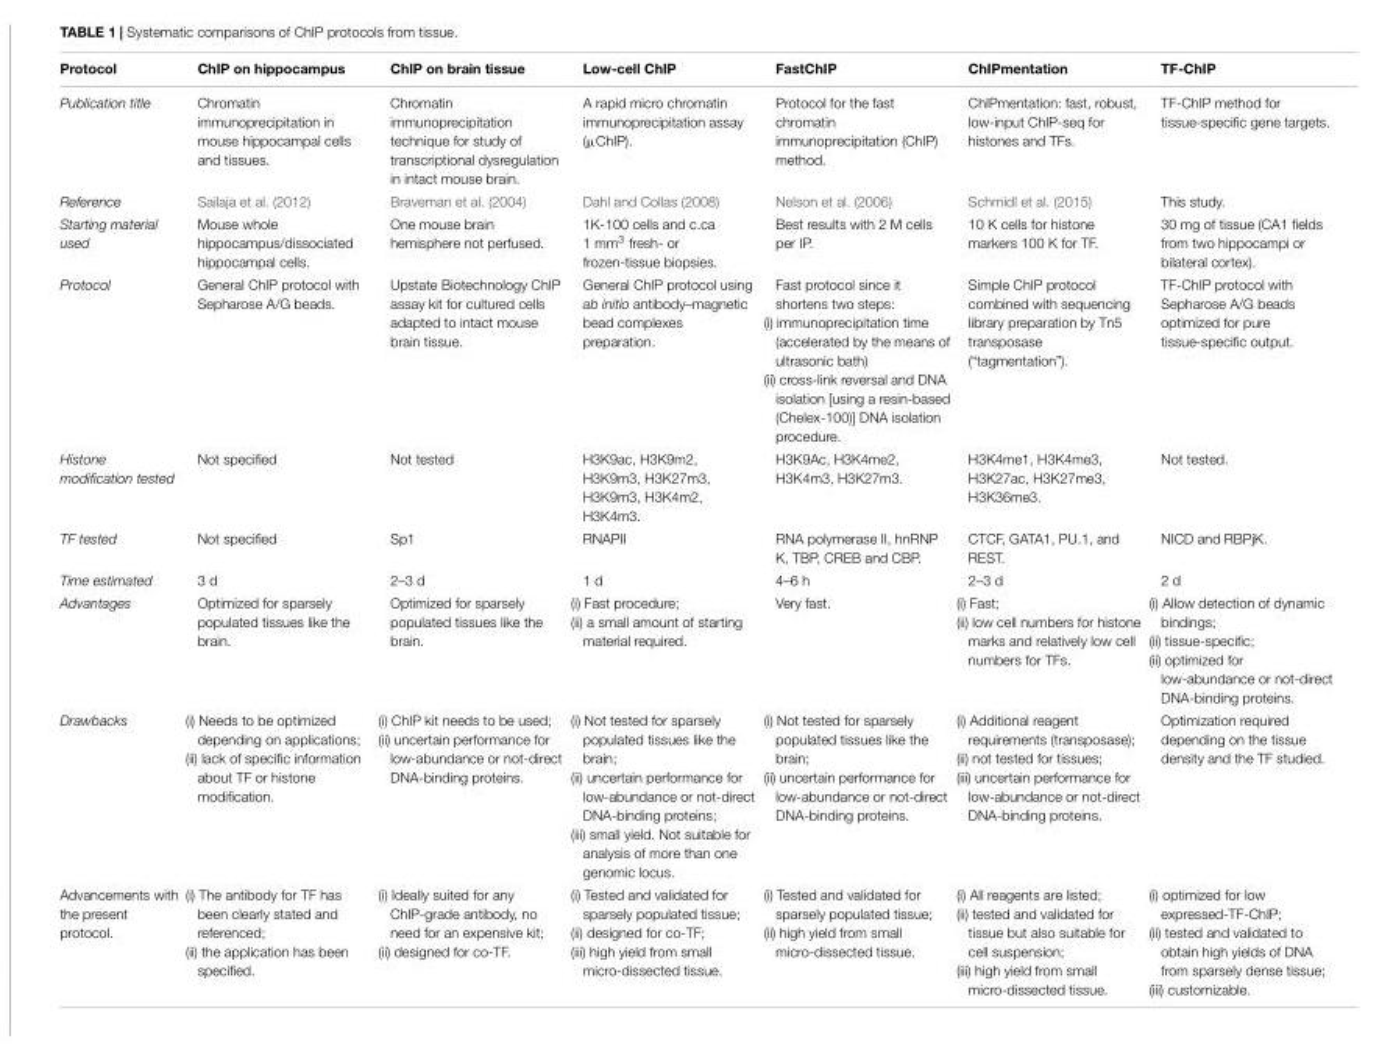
<table><thead><tr><td>Protocol</td><td>ChIP on hippocampus</td><td>ChIP on brain tissue</td><td>Low-cell ChIP</td><td>FastChIP</td><td>ChIPmentation</td><td>TF-ChIP</td></tr></thead><tbody><tr><td>Publication title</td><td>Chromatin immunoprecipitation in mouse hippocampal cells and tissues.</td><td>Chromatin immunoprecipitation technique for study of transcriptional dysregulation in intact mouse brain.</td><td>A rapid micro chromatin immunoprecipitation assay (µChIP).</td><td>Protocol for the fast chromatin immunoprecipitation (ChIP) method.</td><td>ChIPmentation: fast, robust, low-input ChIP-seq for histones and TFs.</td><td>TF-ChIP method for tissue-specific gene targets.</td></tr><tr><td>Reference</td><td>Sailaja et al. (2012)</td><td>Braveman et al. (2004)</td><td>Dahl and Collas (2008)</td><td>Nelson et al. (2006)</td><td>Schmidl et al. (2015)</td><td>This study.</td></tr><tr><td>Starting material used</td><td>Mouse whole hippocampus/dissociated hippocampal cells.</td><td>One mouse brain hemisphere not perfused.</td><td>1K-100 cells and c.ca 1 mm<sup>3</sup> fresh- or frozen-tissue biopsies.</td><td>Best results with 2 M cells per IP.</td><td>10 K cells for histone markers 100 K for TF.</td><td>30 mg of tissue (CA1 fields from two hippocampi or bilateral cortex).</td></tr><tr><td>Protocol</td><td>General ChIP protocol with Sepharose A/G beads.</td><td>Upstate Biotechnology ChIP assay kit for cultured cells adapted to intact mouse brain tissue.</td><td>General ChIP protocol using ab initio antibody–magnetic bead complexes preparation.</td><td>Fast protocol since it shortens two steps: (i) immunoprecipitation time (accelerated by the means of ultrasonic bath) (ii) cross-link reversal and DNA isolation [using a resin-based (Chelex-100)] DNA isolation procedure.</td><td>Simple ChIP protocol combined with sequencing library preparation by Tn5 transposase (“tagmentation”).</td><td>TF-ChIP protocol with Sepharose A/G beads optimized for pure tissue-specific output.</td></tr><tr><td>Histone modification tested</td><td>Not specified</td><td>Not tested</td><td>H3K9ac, H3K9m2, H3K9m3, H3K27m3, H3K9m3, H3K4m2, H3K4m3.</td><td>H3K9Ac, H3K4me2, H3K4m3, H3K27m3.</td><td>H3K4me1, H3K4me3, H3K27ac, H3K27me3, H3K36me3.</td><td>Not tested.</td></tr><tr><td>TF tested</td><td>Not specified</td><td>Sp1</td><td>RNAPII</td><td>RNA polymerase II, hnRNP K, TBP, CREB and CBP.</td><td>CTCF, GATA1, PU.1, and REST.</td><td>NICD and RBPjK.</td></tr><tr><td>Time estimated</td><td>3 d</td><td>2–3 d</td><td>1 d</td><td>4–6 h</td><td>2–3 d</td><td>2 d</td></tr><tr><td>Advantages</td><td>Optimized for sparsely populated tissues like the brain.</td><td>Optimized for sparsely populated tissues like the brain.</td><td>(i) Fast procedure; (ii) a small amount of starting material required.</td><td>Very fast.</td><td>(i) Fast; (ii) low cell numbers for histone marks and relatively low cell numbers for TFs.</td><td>(i) Allow detection of dynamic bindings; (ii) tissue-specific; (ii) optimized for low-abundance or not-direct DNA-binding proteins.</td></tr><tr><td>Drawbacks</td><td>(i) Needs to be optimized depending on applications; (ii) lack of specific information about TF or histone modification.</td><td>(i) ChIP kit needs to be used; (ii) uncertain performance for low-abundance or not-direct DNA-binding proteins.</td><td>(i) Not tested for sparsely populated tissues like the brain; (ii) uncertain performance for low-abundance or not-direct DNA-binding proteins; (iii) small yield. Not suitable for analysis of more than one genomic locus.</td><td>(i) Not tested for sparsely populated tissues like the brain; (ii) uncertain performance for low-abundance or not-direct DNA-binding proteins.</td><td>(i) Additional reagent requirements (transposase); (ii) not tested for tissues; (iii) uncertain performance for low-abundance or not-direct DNA-binding proteins.</td><td>Optimization required depending on the tissue density and the TF studied.</td></tr><tr><td>Advancements with the present protocol.</td><td>(i) The antibody for TF has been clearly stated and referenced; (ii) the application has been specified.</td><td>(i) Ideally suited for any ChIP-grade antibody, no need for an expensive kit; (ii) designed for co-TF.</td><td>(i) Tested and validated for sparsely populated tissue; (ii) designed for co-TF; (iii) high yield from small micro-dissected tissue.</td><td>(i) Tested and validated for sparsely populated tissue; (ii) high yield from small micro-dissected tissue.</td><td>(i) All reagents are listed; (ii) tested and validated for tissue but also suitable for cell suspension; (iii) high yield from small micro-dissected tissue.</td><td>(i) optimized for low expressed-TF-ChIP; (ii) tested and validated to obtain high yields of DNA from sparsely dense tissue; (iii) customizable.</td></tr></tbody></table>